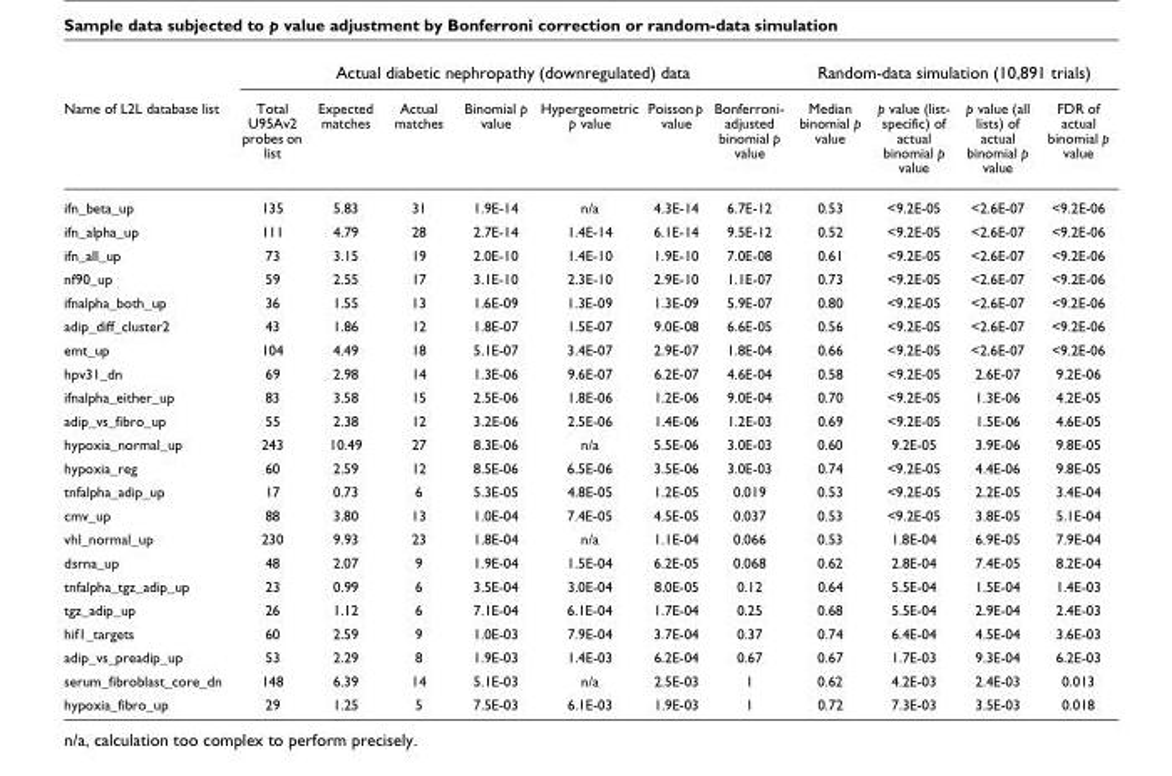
<table><thead><tr><td rowspan="2">Name of L2L database list</td><td colspan="7">Actual diabetic nephropathy (downregulated) data</td><td colspan="4">Random-data simulation (10,891 trials)</td></tr><tr><td>Total U95Av2 probes on list</td><td>Expected matches</td><td>Actual matches</td><td>Binomial p value</td><td>Hypergeometric p value</td><td>Poisson p value</td><td>Bonferroni- adjusted binomial p value</td><td>Median binomial p value</td><td>p value (list- specific) of actual binomial p value</td><td>p value (all lists) of actual binomial p value</td><td>FDR of actual binomial p value</td></tr></thead><tbody><tr><td>ifn_beta_up</td><td>135</td><td>5.83</td><td>31</td><td>1.9E-14</td><td>n/a</td><td>4.3E-14</td><td>6.7E-12</td><td>0.53</td><td>&lt;9.2E-05</td><td>&lt;2.6E-07</td><td>&lt;9.2E-06</td></tr><tr><td>ifn_alpha_up</td><td>111</td><td>4.79</td><td>28</td><td>2.7E-14</td><td>1.4E-14</td><td>6.1E-14</td><td>9.5E-12</td><td>0.52</td><td>&lt;9.2E-05</td><td>&lt;2.6E-07</td><td>&lt;9.2E-06</td></tr><tr><td>ifn_all_up</td><td>73</td><td>3.15</td><td>19</td><td>2.0E-10</td><td>1.4E-10</td><td>1.9E-10</td><td>7.0E-08</td><td>0.61</td><td>&lt;9.2E-05</td><td>&lt;2.6E-07</td><td>&lt;9.2E-06</td></tr><tr><td>nf90_up</td><td>59</td><td>2.55</td><td>17</td><td>3.1E-10</td><td>2.3E-10</td><td>2.9E-10</td><td>1.1E-07</td><td>0.73</td><td>&lt;9.2E-05</td><td>&lt;2.6E-07</td><td>&lt;9.2E-06</td></tr><tr><td>ifnalpha_both_up</td><td>36</td><td>1.55</td><td>13</td><td>1.6E-09</td><td>1.3E-09</td><td>1.3E-09</td><td>5.9E-07</td><td>0.80</td><td>&lt;9.2E-05</td><td>&lt;2.6E-07</td><td>&lt;9.2E-06</td></tr><tr><td>adip_diff_cluster2</td><td>43</td><td>1.86</td><td>12</td><td>1.8E-07</td><td>1.5E-07</td><td>9.0E-08</td><td>6.6E-05</td><td>0.56</td><td>&lt;9.2E-05</td><td>&lt;2.6E-07</td><td>&lt;9.2E-06</td></tr><tr><td>emt_up</td><td>104</td><td>4.49</td><td>18</td><td>5.1E-07</td><td>3.4E-07</td><td>2.9E-07</td><td>1.8E-04</td><td>0.66</td><td>&lt;9.2E-05</td><td>&lt;2.6E-07</td><td>&lt;9.2E-06</td></tr><tr><td>hpv31_dn</td><td>69</td><td>2.98</td><td>14</td><td>1.3E-06</td><td>9.6E-07</td><td>6.2E-07</td><td>4.6E-04</td><td>0.58</td><td>&lt;9.2E-05</td><td>2.6E-07</td><td>9.2E-06</td></tr><tr><td>ifnalpha_either_up</td><td>83</td><td>3.58</td><td>15</td><td>2.5E-06</td><td>1.8E-06</td><td>1.2E-06</td><td>9.0E-04</td><td>0.70</td><td>&lt;9.2E-05</td><td>1.3E-06</td><td>4.2E-05</td></tr><tr><td>adip_vs_fibro_up</td><td>55</td><td>2.38</td><td>12</td><td>3.2E-06</td><td>2.5E-06</td><td>1.4E-06</td><td>1.2E-03</td><td>0.69</td><td>&lt;9.2E-05</td><td>1.5E-06</td><td>4.6E-05</td></tr><tr><td>hypoxia_normal_up</td><td>243</td><td>10.49</td><td>27</td><td>8.3E-06</td><td>n/a</td><td>5.5E-06</td><td>3.0E-03</td><td>0.60</td><td>9.2E-05</td><td>3.9E-06</td><td>9.8E-05</td></tr><tr><td>hypoxia_reg</td><td>60</td><td>2.59</td><td>12</td><td>8.5E-06</td><td>6.5E-06</td><td>3.5E-06</td><td>3.0E-03</td><td>0.74</td><td>&lt;9.2E-05</td><td>4.4E-06</td><td>9.8E-05</td></tr><tr><td>tnfalpha_adip_up</td><td>17</td><td>0.73</td><td>6</td><td>5.3E-05</td><td>4.8E-05</td><td>1.2E-05</td><td>0.019</td><td>0.53</td><td>&lt;9.2E-05</td><td>2.2E-05</td><td>3.4E-04</td></tr><tr><td>cmv_up</td><td>88</td><td>3.80</td><td>13</td><td>1.0E-04</td><td>7.4E-05</td><td>4.5E-05</td><td>0.037</td><td>0.53</td><td>&lt;9.2E-05</td><td>3.8E-05</td><td>5.1E-04</td></tr><tr><td>vhl_normal_up</td><td>230</td><td>9.93</td><td>23</td><td>1.8E-04</td><td>n/a</td><td>1.1E-04</td><td>0.066</td><td>0.53</td><td>1.8E-04</td><td>6.9E-05</td><td>7.9E-04</td></tr><tr><td>dsrna_up</td><td>48</td><td>2.07</td><td>9</td><td>1.9E-04</td><td>1.5E-04</td><td>6.2E-05</td><td>0.068</td><td>0.62</td><td>2.8E-04</td><td>7.4E-05</td><td>8.2E-04</td></tr><tr><td>tnfalpha_tgz_adip_up</td><td>23</td><td>0.99</td><td>6</td><td>3.5E-04</td><td>3.0E-04</td><td>8.0E-05</td><td>0.12</td><td>0.64</td><td>5.5E-04</td><td>1.5E-04</td><td>1.4E-03</td></tr><tr><td>tgz_adip_up</td><td>26</td><td>1.12</td><td>6</td><td>7.1E-04</td><td>6.1E-04</td><td>1.7E-04</td><td>0.25</td><td>0.68</td><td>5.5E-04</td><td>2.9E-04</td><td>2.4E-03</td></tr><tr><td>hif1_targets</td><td>60</td><td>2.59</td><td>9</td><td>1.0E-03</td><td>7.9E-04</td><td>3.7E-04</td><td>0.37</td><td>0.74</td><td>6.4E-04</td><td>4.5E-04</td><td>3.6E-03</td></tr><tr><td>adip_vs_preadip_up</td><td>53</td><td>2.29</td><td>8</td><td>1.9E-03</td><td>1.4E-03</td><td>6.2E-04</td><td>0.67</td><td>0.67</td><td>1.7E-03</td><td>9.3E-04</td><td>6.2E-03</td></tr><tr><td>serum_fibroblast_core_dn</td><td>148</td><td>6.39</td><td>14</td><td>5.1E-03</td><td>n/a</td><td>2.5E-03</td><td>1</td><td>0.62</td><td>4.2E-03</td><td>2.4E-03</td><td>0.013</td></tr><tr><td>hypoxia_fibro_up</td><td>29</td><td>1.25</td><td>5</td><td>7.5E-03</td><td>6.1E-03</td><td>1.9E-03</td><td>1</td><td>0.72</td><td>7.3E-03</td><td>3.5E-03</td><td>0.018</td></tr></tbody></table>